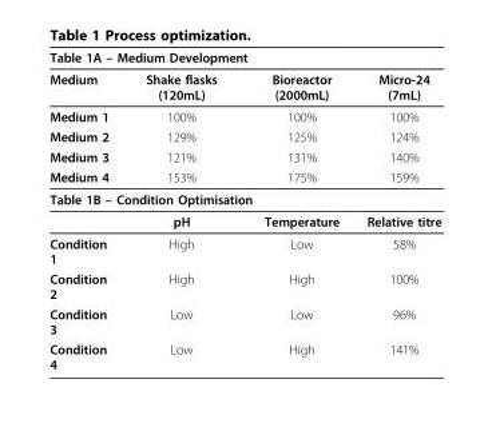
<table><thead><tr><td colspan="4">Table 1A – Medium Development</td></tr><tr><td>Medium</td><td>Shake flasks (120mL)</td><td>Bioreactor (2000mL)</td><td>Micro-24 (7mL)</td></tr></thead><tbody><tr><td>Medium 1</td><td>100%</td><td>100%</td><td>100%</td></tr><tr><td>Medium 2</td><td>129%</td><td>125%</td><td>124%</td></tr><tr><td>Medium 3</td><td>121%</td><td>131%</td><td>140%</td></tr><tr><td>Medium 4</td><td>153%</td><td>175%</td><td>159%</td></tr><tr><td colspan="4">Table 1B – Condition Optimisation</td></tr><tr><td></td><td>pH</td><td>Temperature</td><td>Relative titre</td></tr><tr><td>Condition 1</td><td>High</td><td>Low</td><td>58%</td></tr><tr><td>Condition 2</td><td>High</td><td>High</td><td>100%</td></tr><tr><td>Condition 3</td><td>Low</td><td>Low</td><td>96%</td></tr><tr><td>Condition 4</td><td>Low</td><td>High</td><td>141%</td></tr></tbody></table>